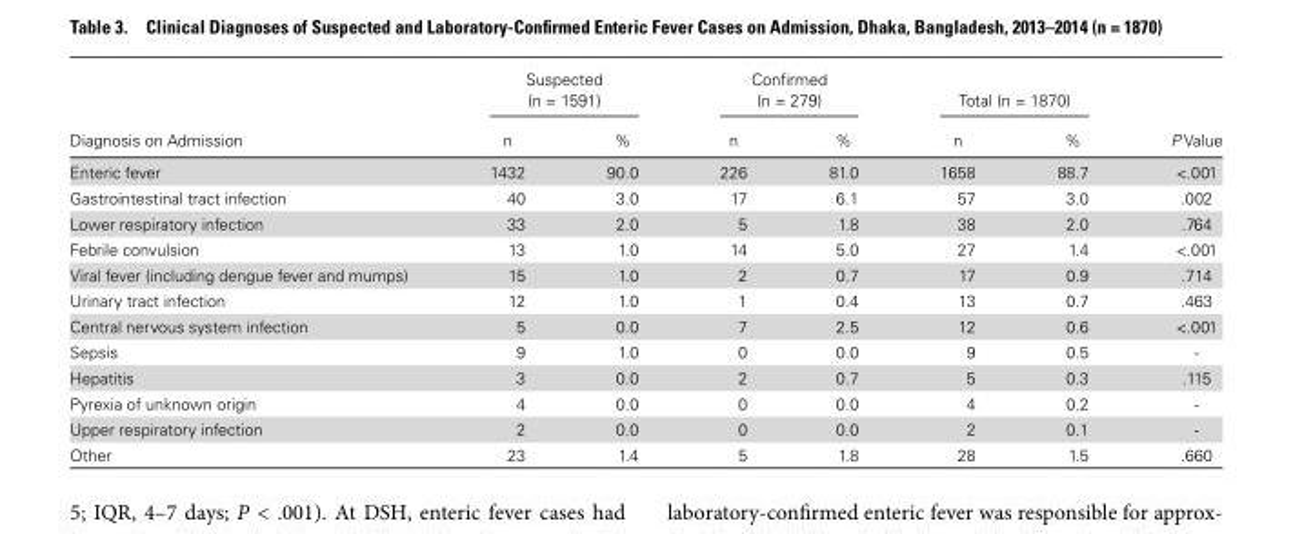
<table><thead><tr><td rowspan="2">Diagnosis on Admission</td><td colspan="2">Suspected (n = 1591)</td><td colspan="2">Confirmed (n = 279)</td><td colspan="2">Total (n = 1870)</td><td rowspan="2">P Value</td></tr><tr><td>n</td><td>%</td><td>n</td><td>%</td><td>n</td><td>%</td></tr></thead><tbody><tr><td>Enteric fever</td><td>1432</td><td>90.0</td><td>226</td><td>81.0</td><td>1658</td><td>88.7</td><td>&lt;.001</td></tr><tr><td>Gastrointestinal tract infection</td><td>40</td><td>3.0</td><td>17</td><td>6.1</td><td>57</td><td>3.0</td><td>.002</td></tr><tr><td>Lower respiratory infection</td><td>33</td><td>2.0</td><td>5</td><td>1.8</td><td>38</td><td>2.0</td><td>.764</td></tr><tr><td>Febrile convulsion</td><td>13</td><td>1.0</td><td>14</td><td>5.0</td><td>27</td><td>1.4</td><td>&lt;.001</td></tr><tr><td>Viral fever (including dengue fever and mumps)</td><td>15</td><td>1.0</td><td>2</td><td>0.7</td><td>17</td><td>0.9</td><td>.714</td></tr><tr><td>Urinary tract infection</td><td>12</td><td>1.0</td><td>1</td><td>0.4</td><td>13</td><td>0.7</td><td>.463</td></tr><tr><td>Central nervous system infection</td><td>5</td><td>0.0</td><td>7</td><td>2.5</td><td>12</td><td>0.6</td><td>&lt;.001</td></tr><tr><td>Sepsis</td><td>9</td><td>1.0</td><td>0</td><td>0.0</td><td>9</td><td>0.5</td><td>-</td></tr><tr><td>Hepatitis</td><td>3</td><td>0.0</td><td>2</td><td>0.7</td><td>5</td><td>0.3</td><td>.115</td></tr><tr><td>Pyrexia of unknown origin</td><td>4</td><td>0.0</td><td>0</td><td>0.0</td><td>4</td><td>0.2</td><td>-</td></tr><tr><td>Upper respiratory infection</td><td>2</td><td>0.0</td><td>0</td><td>0.0</td><td>2</td><td>0.1</td><td>-</td></tr><tr><td>Other</td><td>23</td><td>1.4</td><td>5</td><td>1.8</td><td>28</td><td>1.5</td><td>.660</td></tr></tbody></table>